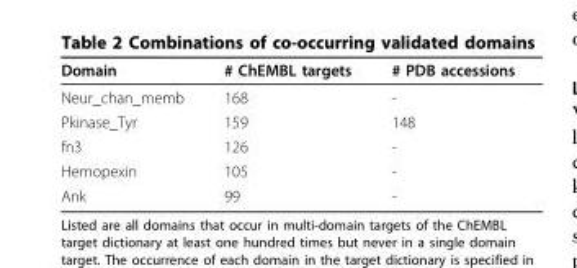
<table><thead><tr><td>Domain</td><td># ChEMBL targets</td><td># PDB accessions</td></tr></thead><tbody><tr><td>Neur_chan_memb</td><td>168</td><td>-</td></tr><tr><td>Pkinase_Tyr</td><td>159</td><td>148</td></tr><tr><td>fn3</td><td>126</td><td>-</td></tr><tr><td>Hemopexin</td><td>105</td><td>-</td></tr><tr><td>Ank</td><td>99</td><td>-</td></tr></tbody></table>